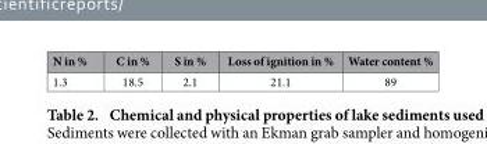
<table><thead><tr><td>N in %</td><td>C in %</td><td>S in %</td><td>Loss of ignition in %</td><td>Water content %</td></tr></thead><tbody><tr><td>1.3</td><td>18.5</td><td>2.1</td><td>21.1</td><td>89</td></tr></tbody></table>